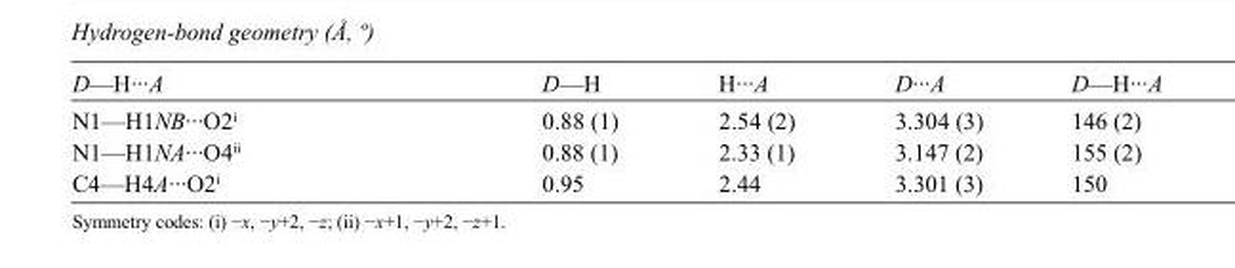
<table><tbody><tr><td>D—H···A</td><td>D—H</td><td>H···A</td><td>D···A</td><td>D—H···A</td></tr><tr><td>N1—H1NB···O2<sup>i</sup></td><td>0.88 (1)</td><td>2.54 (2)</td><td>3.304 (3)</td><td>146 (2)</td></tr><tr><td>N1—H1NA···O4<sup>ii</sup></td><td>0.88 (1)</td><td>2.33 (1)</td><td>3.147 (2)</td><td>155 (2)</td></tr><tr><td>C4—H4A···O2<sup>i</sup></td><td>0.95</td><td>2.44</td><td>3.301 (3)</td><td>150</td></tr></tbody></table>